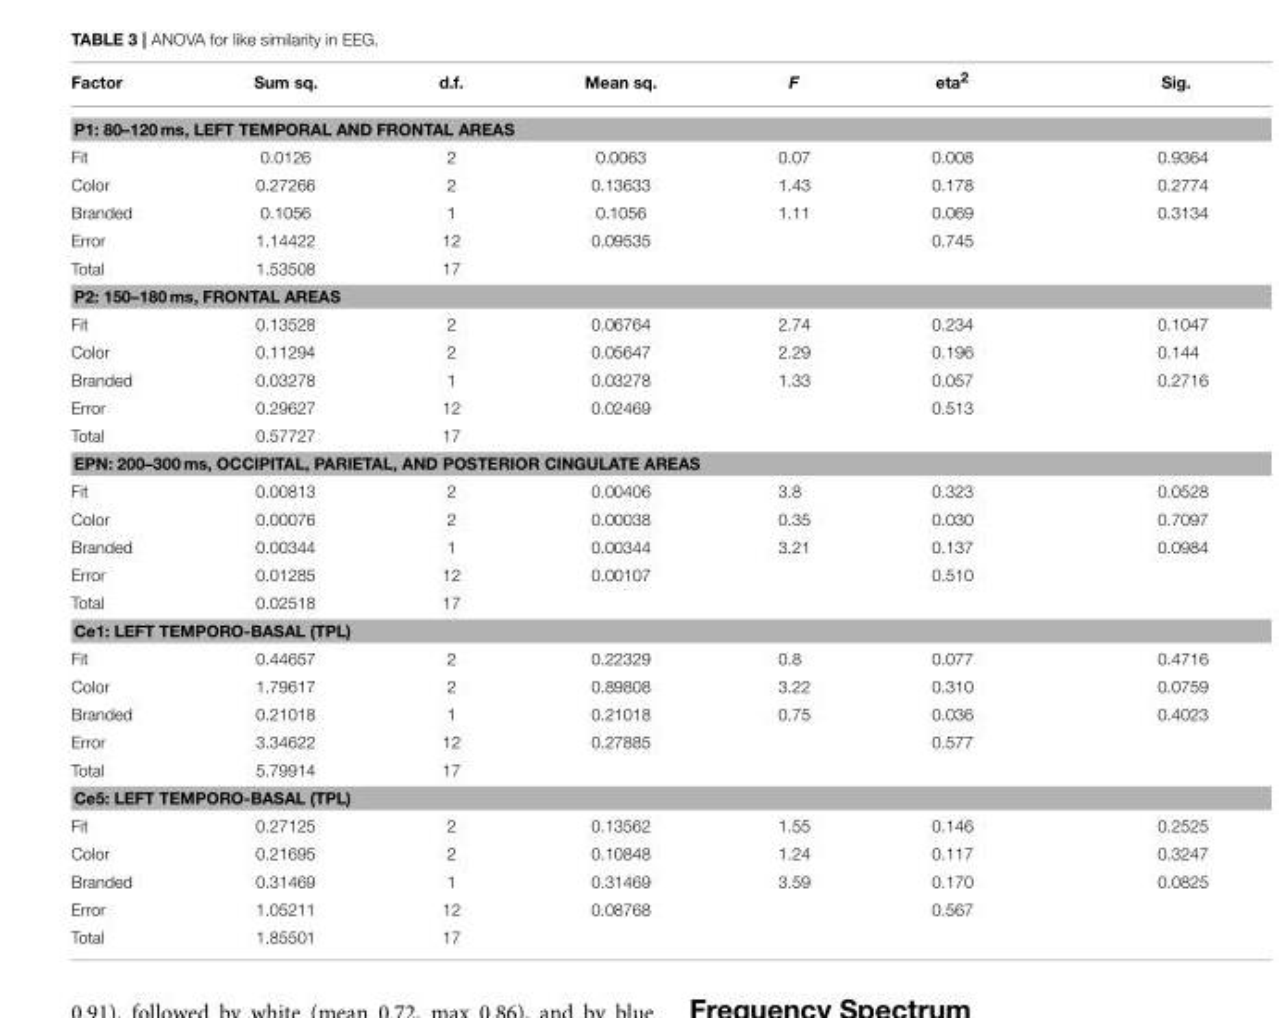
<table><thead><tr><td>Factor</td><td>Sum sq.</td><td>d.f.</td><td>Mean sq.</td><td>F</td><td>eta<sup>2</sup></td><td>Sig.</td></tr></thead><tbody><tr><td colspan="7">P1: 80–120 ms, LEFT TEMPORAL AND FRONTAL AREAS</td></tr><tr><td>Fit</td><td>0.0126</td><td>2</td><td>0.0063</td><td>0.07</td><td>0.008</td><td>0.9364</td></tr><tr><td>Color</td><td>0.27266</td><td>2</td><td>0.13633</td><td>1.43</td><td>0.178</td><td>0.2774</td></tr><tr><td>Branded</td><td>0.1056</td><td>1</td><td>0.1056</td><td>1.11</td><td>0.069</td><td>0.3134</td></tr><tr><td>Error</td><td>1.14422</td><td>12</td><td>0.09535</td><td></td><td>0.745</td><td></td></tr><tr><td>Total</td><td>1.53508</td><td>17</td><td></td><td></td><td></td><td></td></tr><tr><td colspan="7">P2: 150–180 ms, FRONTAL AREAS</td></tr><tr><td>Fit</td><td>0.13528</td><td>2</td><td>0.06764</td><td>2.74</td><td>0.234</td><td>0.1047</td></tr><tr><td>Color</td><td>0.11294</td><td>2</td><td>0.05647</td><td>2.29</td><td>0.196</td><td>0.144</td></tr><tr><td>Branded</td><td>0.03278</td><td>1</td><td>0.03278</td><td>1.33</td><td>0.057</td><td>0.2716</td></tr><tr><td>Error</td><td>0.29627</td><td>12</td><td>0.02469</td><td></td><td>0.513</td><td></td></tr><tr><td>Total</td><td>0.57727</td><td>17</td><td></td><td></td><td></td><td></td></tr><tr><td colspan="7">EPN: 200–300 ms, OCCIPITAL, PARIETAL, AND POSTERIOR CINGULATE AREAS</td></tr><tr><td>Fit</td><td>0.00813</td><td>2</td><td>0.00406</td><td>3.8</td><td>0.323</td><td>0.0528</td></tr><tr><td>Color</td><td>0.00076</td><td>2</td><td>0.00038</td><td>0.35</td><td>0.030</td><td>0.7097</td></tr><tr><td>Branded</td><td>0.00344</td><td>1</td><td>0.00344</td><td>3.21</td><td>0.137</td><td>0.0984</td></tr><tr><td>Error</td><td>0.01285</td><td>12</td><td>0.00107</td><td></td><td>0.510</td><td></td></tr><tr><td>Total</td><td>0.02518</td><td>17</td><td></td><td></td><td></td><td></td></tr><tr><td colspan="7">Ce1: LEFT TEMPORO-BASAL (TPL)</td></tr><tr><td>Fit</td><td>0.44657</td><td>2</td><td>0.22329</td><td>0.8</td><td>0.077</td><td>0.4716</td></tr><tr><td>Color</td><td>1.79617</td><td>2</td><td>0.89808</td><td>3.22</td><td>0.310</td><td>0.0759</td></tr><tr><td>Branded</td><td>0.21018</td><td>1</td><td>0.21018</td><td>0.75</td><td>0.036</td><td>0.4023</td></tr><tr><td>Error</td><td>3.34622</td><td>12</td><td>0.27885</td><td></td><td>0.577</td><td></td></tr><tr><td>Total</td><td>5.79914</td><td>17</td><td></td><td></td><td></td><td></td></tr><tr><td colspan="7">Ce5: LEFT TEMPORO-BASAL (TPL)</td></tr><tr><td>Fit</td><td>0.27125</td><td>2</td><td>0.13562</td><td>1.55</td><td>0.146</td><td>0.2525</td></tr><tr><td>Color</td><td>0.21695</td><td>2</td><td>0.10848</td><td>1.24</td><td>0.117</td><td>0.3247</td></tr><tr><td>Branded</td><td>0.31469</td><td>1</td><td>0.31469</td><td>3.59</td><td>0.170</td><td>0.0825</td></tr><tr><td>Error</td><td>1.05211</td><td>12</td><td>0.08768</td><td></td><td>0.567</td><td></td></tr><tr><td>Total</td><td>1.85501</td><td>17</td><td></td><td></td><td></td><td></td></tr></tbody></table>